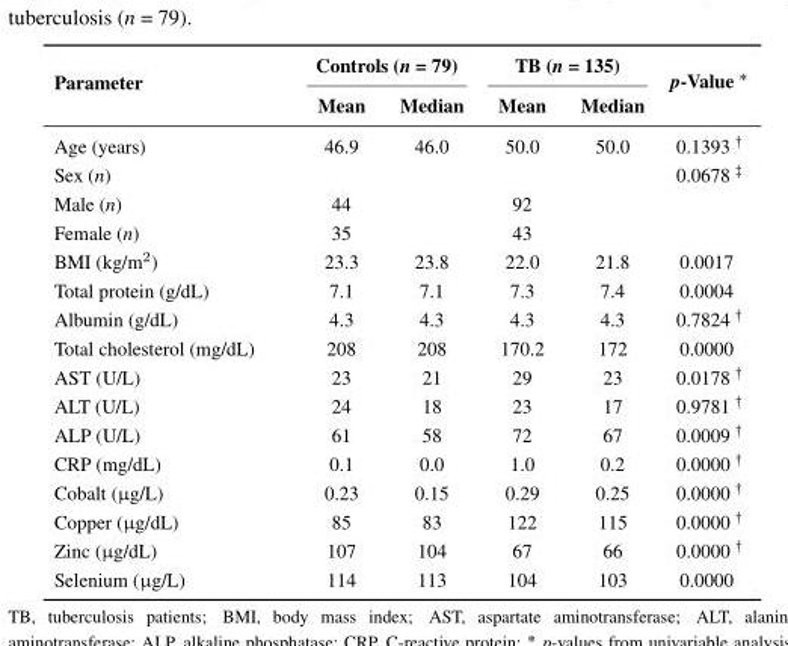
<table><thead><tr><td rowspan="2">Parameter</td><td colspan="2">Controls (n = 79)</td><td colspan="2">TB (n = 135)</td><td rowspan="2">p-Value</td></tr><tr><td>Mean</td><td>Median</td><td>Mean</td><td>Median</td></tr></thead><tbody><tr><td>Age (years)</td><td>46.9</td><td>46.0</td><td>50.0</td><td>50.0</td><td>0.1393</td></tr><tr><td>Sex (n)</td><td></td><td></td><td></td><td></td><td>0.0678</td></tr><tr><td>Male (n)</td><td>44</td><td></td><td>92</td><td></td><td></td></tr><tr><td>Female (n)</td><td>35</td><td></td><td>43</td><td></td><td></td></tr><tr><td>BMI (kg/m<sup>2</sup>)</td><td>23.3</td><td>23.8</td><td>22.0</td><td>21.8</td><td>0.0017</td></tr><tr><td>Total protein (g/dL)</td><td>7.1</td><td>7.1</td><td>7.3</td><td>7.4</td><td>0.0004</td></tr><tr><td>Albumin (g/dL)</td><td>4.3</td><td>4.3</td><td>4.3</td><td>4.3</td><td>0.7824</td></tr><tr><td>Total cholesterol (mg/dL)</td><td>208</td><td>208</td><td>170.2</td><td>172</td><td>0.0000</td></tr><tr><td>AST (U/L)</td><td>23</td><td>21</td><td>29</td><td>23</td><td>0.0178</td></tr><tr><td>ALT (U/L)</td><td>24</td><td>18</td><td>23</td><td>17</td><td>0.9781</td></tr><tr><td>ALP (U/L)</td><td>61</td><td>58</td><td>72</td><td>67</td><td>0.0009</td></tr><tr><td>CRP (mg/dL)</td><td>0.1</td><td>0.0</td><td>1.0</td><td>0.2</td><td>0.0000</td></tr><tr><td>Cobalt (µg/L)</td><td>0.23</td><td>0.15</td><td>0.29</td><td>0.25</td><td>0.0000</td></tr><tr><td>Copper (µg/dL)</td><td>85</td><td>83</td><td>122</td><td>115</td><td>0.0000</td></tr><tr><td>Zinc (µg/dL)</td><td>107</td><td>104</td><td>67</td><td>66</td><td>0.0000</td></tr><tr><td>Selenium (µg/L)</td><td>114</td><td>113</td><td>104</td><td>103</td><td>0.0000</td></tr></tbody></table>